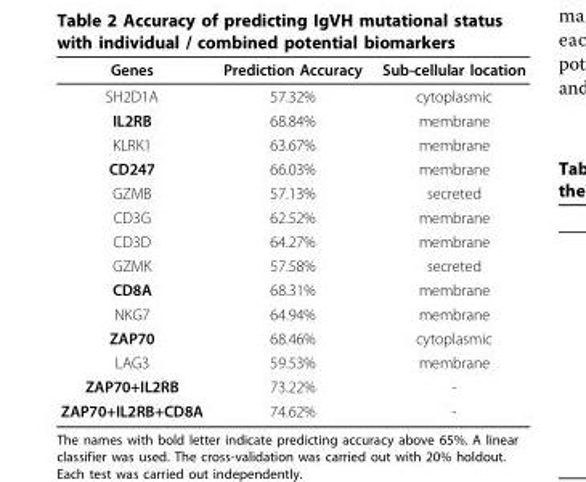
<table><thead><tr><td>Genes</td><td>Prediction Accuracy</td><td>Sub-cellular location</td></tr></thead><tbody><tr><td>SH2D1A</td><td>57.32%</td><td>cytoplasmic</td></tr><tr><td>IL2RB</td><td>68.84%</td><td>membrane</td></tr><tr><td>KLRK1</td><td>63.67%</td><td>membrane</td></tr><tr><td>CD247</td><td>66.03%</td><td>membrane</td></tr><tr><td>GZMB</td><td>57.13%</td><td>secreted</td></tr><tr><td>CD3G</td><td>62.52%</td><td>membrane</td></tr><tr><td>CD3D</td><td>64.27%</td><td>membrane</td></tr><tr><td>GZMK</td><td>57.58%</td><td>secreted</td></tr><tr><td>CD8A</td><td>68.31%</td><td>membrane</td></tr><tr><td>NKG7</td><td>64.94%</td><td>membrane</td></tr><tr><td>ZAP70</td><td>68.46%</td><td>cytoplasmic</td></tr><tr><td>LAG3</td><td>59.53%</td><td>membrane</td></tr><tr><td>ZAP70+IL2RB</td><td>73.22%</td><td>-</td></tr><tr><td>ZAP70+IL2RB+CD8A</td><td>74.62%</td><td>-</td></tr></tbody></table>